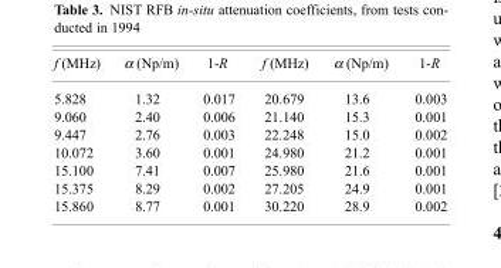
<table><thead><tr><td>f (MHz)</td><td>α (Np/m)</td><td>1-R</td><td>f (MHz)</td><td>α (Np/m)</td><td>1-R</td></tr></thead><tbody><tr><td>5.828</td><td>1.32</td><td>0.017</td><td>20.679</td><td>13.6</td><td>0.003</td></tr><tr><td>9.060</td><td>2.40</td><td>0.006</td><td>21.140</td><td>15.3</td><td>0.001</td></tr><tr><td>9.447</td><td>2.76</td><td>0.003</td><td>22.248</td><td>15.0</td><td>0.002</td></tr><tr><td>10.072</td><td>3.60</td><td>0.001</td><td>24.980</td><td>21.2</td><td>0.001</td></tr><tr><td>15.100</td><td>7.41</td><td>0.007</td><td>25.980</td><td>21.6</td><td>0.001</td></tr><tr><td>15.375</td><td>8.29</td><td>0.002</td><td>27.205</td><td>24.9</td><td>0.001</td></tr><tr><td>15.860</td><td>8.77</td><td>0.001</td><td>30.220</td><td>28.9</td><td>0.002</td></tr></tbody></table>